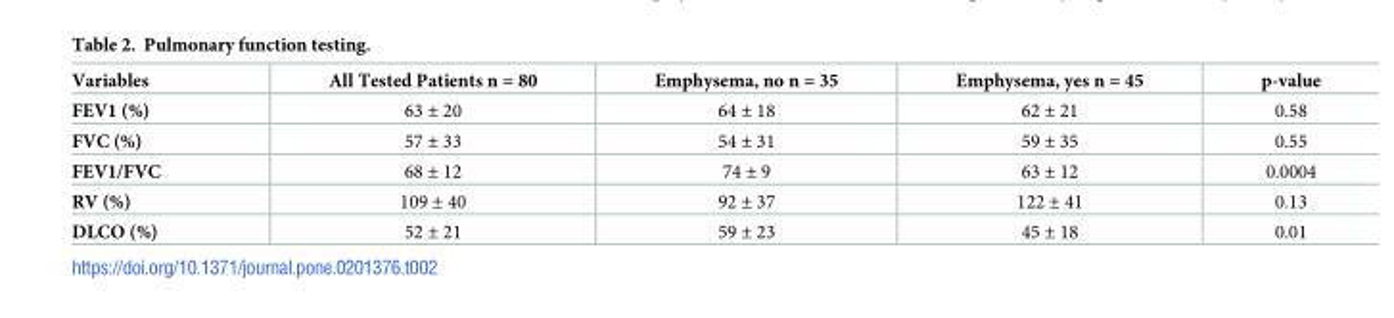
<table><thead><tr><td>Variables</td><td>All Tested Patients n = 80</td><td>Emphysema, no n = 35</td><td>Emphysema, yes n = 45</td><td>p-value</td></tr></thead><tbody><tr><td>FEV1 (%)</td><td>63 ± 20</td><td>64 ± 18</td><td>62 ± 21</td><td>0.58</td></tr><tr><td>FVC (%)</td><td>57 ± 33</td><td>54 ± 31</td><td>59 ± 35</td><td>0.55</td></tr><tr><td>FEV1/FVC</td><td>68 ± 12</td><td>74 ± 9</td><td>63 ± 12</td><td>0.0004</td></tr><tr><td>RV (%)</td><td>109 ± 40</td><td>92 ± 37</td><td>122 ± 41</td><td>0.13</td></tr><tr><td>DLCO (%)</td><td>52 ± 21</td><td>59 ± 23</td><td>45 ± 18</td><td>0.01</td></tr></tbody></table>